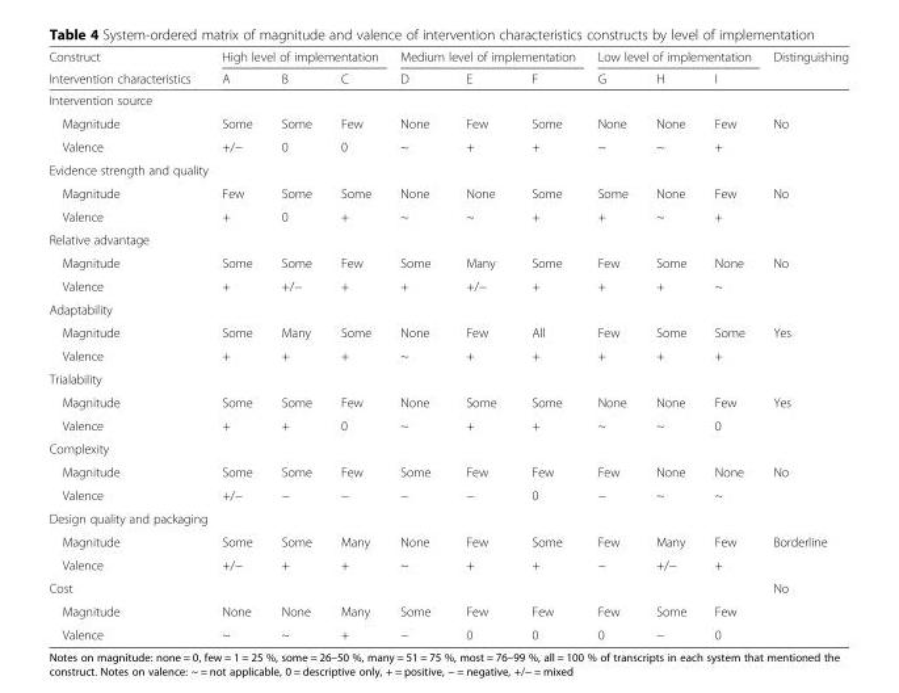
<table><thead><tr><td rowspan="2">Construct Intervention characteristics</td><td colspan="3">High level of implementation</td><td colspan="3">Medium level of implementation</td><td colspan="3">Low level of implementation</td><td rowspan="2">Distinguishing</td></tr><tr><td>A</td><td>B</td><td>C</td><td>D</td><td>E</td><td>F</td><td>G</td><td>H</td><td>I</td></tr></thead><tbody><tr><td colspan="11">Intervention source</td></tr><tr><td>Magnitude</td><td>Some</td><td>Some</td><td>Few</td><td>None</td><td>Few</td><td>Some</td><td>None</td><td>None</td><td>Few</td><td rowspan="2">No</td></tr><tr><td>Valence</td><td>+/−</td><td>0</td><td>0</td><td>~</td><td>+</td><td>+</td><td>~</td><td>~</td><td>+</td></tr><tr><td colspan="11">Evidence strength and quality</td></tr><tr><td>Magnitude</td><td>Few</td><td>Some</td><td>Some</td><td>None</td><td>None</td><td>Some</td><td>Some</td><td>None</td><td>Few</td><td rowspan="2">No</td></tr><tr><td>Valence</td><td>+</td><td>0</td><td>+</td><td>~</td><td>~</td><td>+</td><td>+</td><td>~</td><td>+</td></tr><tr><td colspan="11">Relative advantage</td></tr><tr><td>Magnitude</td><td>Some</td><td>Some</td><td>Few</td><td>Some</td><td>Many</td><td>Some</td><td>Few</td><td>Some</td><td>None</td><td rowspan="2">No</td></tr><tr><td>Valence</td><td>+</td><td>+/−</td><td>+</td><td>+</td><td>+/−</td><td>+</td><td>+</td><td>+</td><td>~</td></tr><tr><td colspan="11">Adaptability</td></tr><tr><td>Magnitude</td><td>Some</td><td>Many</td><td>Some</td><td>None</td><td>Few</td><td>All</td><td>Few</td><td>Some</td><td>Some</td><td rowspan="2">Yes</td></tr><tr><td>Valence</td><td>+</td><td>+</td><td>+</td><td>~</td><td>+</td><td>+</td><td>+</td><td>+</td><td>+</td></tr><tr><td colspan="11">Trialability</td></tr><tr><td>Magnitude</td><td>Some</td><td>Some</td><td>Few</td><td>None</td><td>Some</td><td>Some</td><td>None</td><td>None</td><td>Few</td><td rowspan="2">Yes</td></tr><tr><td>Valence</td><td>+</td><td>+</td><td>0</td><td>~</td><td>+</td><td>+</td><td>~</td><td>~</td><td>0</td></tr><tr><td colspan="11">Complexity</td></tr><tr><td>Magnitude</td><td>Some</td><td>Some</td><td>Few</td><td>Some</td><td>Few</td><td>Few</td><td>Few</td><td>None</td><td>None</td><td rowspan="2">No</td></tr><tr><td>Valence</td><td>+/−</td><td>−</td><td>−</td><td>−</td><td>−</td><td>0</td><td>−</td><td>~</td><td>~</td></tr><tr><td colspan="11">Design quality and packaging</td></tr><tr><td>Magnitude</td><td>Some</td><td>Some</td><td>Many</td><td>None</td><td>Few</td><td>Some</td><td>Few</td><td>Many</td><td>Few</td><td rowspan="2">Borderline</td></tr><tr><td>Valence</td><td>+/−</td><td>+</td><td>+</td><td>~</td><td>+</td><td>+</td><td>−</td><td>+/−</td><td>+</td></tr><tr><td colspan="10">Cost</td><td rowspan="3">No</td></tr><tr><td>Magnitude</td><td>None</td><td>None</td><td>Many</td><td>Some</td><td>Few</td><td>Few</td><td>Few</td><td>Some</td><td>Few</td></tr><tr><td>Valence</td><td>~</td><td>~</td><td>+</td><td>−</td><td>0</td><td>0</td><td>0</td><td>−</td><td>0</td></tr></tbody></table>